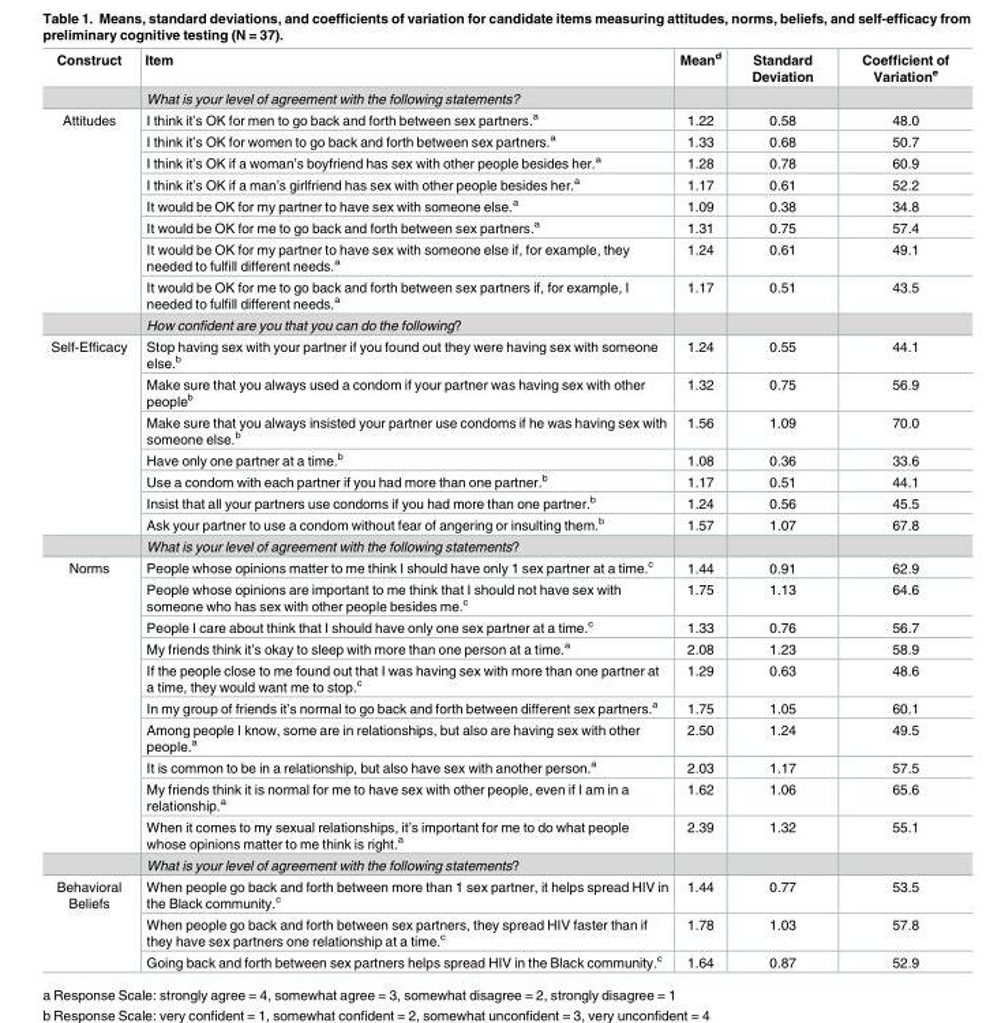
<table><thead><tr><td>Construct</td><td>Item</td><td>Mean<sup>d</sup></td><td>Standard Deviation</td><td>Coefficient of Variation<sup>e</sup></td></tr></thead><tbody><tr><td></td><td>What is your level of agreement with the following statements?</td><td></td><td></td><td></td></tr><tr><td rowspan="9">Attitudes</td><td>I think it’s OK for men to go back and forth between sex partners.<sup>a</sup></td><td>1.22</td><td>0.58</td><td>48.0</td></tr><tr><td>I think it’s OK for women to go back and forth between sex partners.<sup>a</sup></td><td>1.33</td><td>0.68</td><td>50.7</td></tr><tr><td>I think it’s OK if a woman’s boyfriend has sex with other people besides her.<sup>a</sup></td><td>1.28</td><td>0.78</td><td>60.9</td></tr><tr><td>I think it’s OK if a man’s girlfriend has sex with other people besides her.<sup>a</sup></td><td>1.17</td><td>0.61</td><td>52.2</td></tr><tr><td>It would be OK for my partner to have sex with someone else.<sup>a</sup></td><td>1.09</td><td>0.38</td><td>34.8</td></tr><tr><td>It would be OK for me to go back and forth between sex partners.<sup>a</sup></td><td>1.31</td><td>0.75</td><td>57.4</td></tr><tr><td>It would be OK for my partner to have sex with someone else if, for example, they needed to fulfill different needs.<sup>a</sup></td><td>1.24</td><td>0.61</td><td>49.1</td></tr><tr><td>It would be OK for me to go back and forth between sex partners if, for example, I needed to fulfill different needs.<sup>a</sup></td><td>1.17</td><td>0.51</td><td>43.5</td></tr><tr><td>How confident are you that you can do the following?</td><td></td><td></td><td></td></tr><tr><td rowspan="8">Self-Efficacy</td><td>Stop having sex with your partner if you found out they were having sex with someone else.<sup>b</sup></td><td>1.24</td><td>0.55</td><td>44.1</td></tr><tr><td>Make sure that you always used a condom if your partner was having sex with other people<sup>b</sup></td><td>1.32</td><td>0.75</td><td>56.9</td></tr><tr><td>Make sure that you always insisted your partner use condoms if he was having sex with someone else.<sup>b</sup></td><td>1.56</td><td>1.09</td><td>70.0</td></tr><tr><td>Have only one partner at a time.<sup>b</sup></td><td>1.08</td><td>0.36</td><td>33.6</td></tr><tr><td>Use a condom with each partner if you had more than one partner.<sup>b</sup></td><td>1.17</td><td>0.51</td><td>44.1</td></tr><tr><td>Insist that all your partners use condoms if you had more than one partner.<sup>b</sup></td><td>1.24</td><td>0.56</td><td>45.5</td></tr><tr><td>Ask your partner to use a condom without fear of angering or insulting them.<sup>b</sup></td><td>1.57</td><td>1.07</td><td>67.8</td></tr><tr><td>What is your level of agreement with the following statements?</td><td></td><td></td><td></td></tr><tr><td rowspan="11">Norms</td><td>People whose opinions matter to me think I should have only 1 sex partner at a time.<sup>c</sup></td><td>1.44</td><td>0.91</td><td>62.9</td></tr><tr><td>People whose opinions are important to me think that I should not have sex with someone who has sex with other people besides me.<sup>c</sup></td><td>1.75</td><td>1.13</td><td>64.6</td></tr><tr><td>People I care about think that I should have only one sex partner at a time.<sup>c</sup></td><td>1.33</td><td>0.76</td><td>56.7</td></tr><tr><td>My friends think it’s okay to sleep with more than one person at a time.<sup>a</sup></td><td>2.08</td><td>1.23</td><td>58.9</td></tr><tr><td>If the people close to me found out that I was having sex with more than one partner at a time, they would want me to stop.<sup>c</sup></td><td>1.29</td><td>0.63</td><td>48.6</td></tr><tr><td>In my group of friends it’s normal to go back and forth between different sex partners.<sup>a</sup></td><td>1.75</td><td>1.05</td><td>60.1</td></tr><tr><td>Among people I know, some are in relationships, but also are having sex with other people.<sup>a</sup></td><td>2.50</td><td>1.24</td><td>49.5</td></tr><tr><td>It is common to be in a relationship, but also have sex with another person.<sup>a</sup></td><td>2.03</td><td>1.17</td><td>57.5</td></tr><tr><td>My friends think it is normal for me to have sex with other people, even if I am in a relationship.<sup>a</sup></td><td>1.62</td><td>1.06</td><td>65.6</td></tr><tr><td>When it comes to my sexual relationships, it’s important for me to do what people whose opinions matter to me think is right.<sup>a</sup></td><td>2.39</td><td>1.32</td><td>55.1</td></tr><tr><td>What is your level of agreement with the following statements?</td><td></td><td></td><td></td></tr><tr><td rowspan="3">Behavioral Beliefs</td><td>When people go back and forth between more than 1 sex partner, it helps spread HIV in the Black community.<sup>c</sup></td><td>1.44</td><td>0.77</td><td>53.5</td></tr><tr><td>When people go back and forth between sex partners, they spread HIV faster than if they have sex partners one relationship at a time.<sup>c</sup></td><td>1.78</td><td>1.03</td><td>57.8</td></tr><tr><td>Going back and forth between sex partners helps spread HIV in the Black community.<sup>c</sup></td><td>1.64</td><td>0.87</td><td>52.9</td></tr></tbody></table>